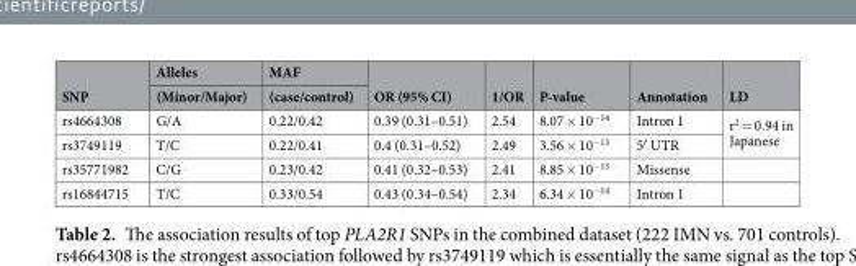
<table><thead><tr><td rowspan="2">SNP</td><td rowspan="2">Alleles (Minor/Major)</td><td rowspan="2">MAF (case/control)</td><td rowspan="2">OR (95% CI)</td><td rowspan="2">1/OR</td><td rowspan="2">P-value</td><td rowspan="2">Annotation</td><td rowspan="2">LD</td></tr><tr></tr></thead><tbody><tr><td>rs4664308</td><td>G/A</td><td>0.22/0.42</td><td>0.39 (0.31–0.51)</td><td>2.54</td><td>8.07 × 10<sup>−14</sup></td><td>Intron 1</td><td rowspan="2">r<sup>2</sup> = 0.94 in Japanese</td></tr><tr><td>rs3749119</td><td>T/C</td><td>0.22/0.41</td><td>0.4 (0.31–0.52)</td><td>2.49</td><td>3.56 × 10<sup>−13</sup></td><td>5′ UTR</td></tr><tr><td>rs35771982</td><td>C/G</td><td>0.23/0.42</td><td>0.41 (0.32–0.53)</td><td>2.41</td><td>8.85 × 10<sup>−13</sup></td><td>Missense</td><td></td></tr><tr><td>rs16844715</td><td>T/C</td><td>0.33/0.54</td><td>0.43 (0.34–0.54)</td><td>2.34</td><td>6.34 × 10<sup>−14</sup></td><td>Intron 1</td><td></td></tr></tbody></table>